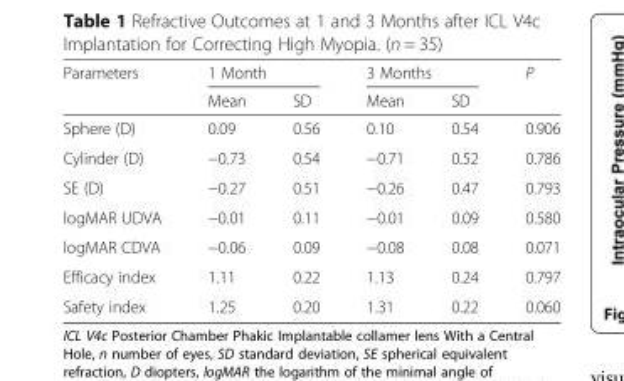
<table><thead><tr><td rowspan="2">Parameters</td><td colspan="2">1 Month</td><td colspan="2">3 Months</td><td rowspan="2">P</td></tr><tr><td>Mean</td><td>SD</td><td>Mean</td><td>SD</td></tr></thead><tbody><tr><td>Sphere (D)</td><td>0.09</td><td>0.56</td><td>0.10</td><td>0.54</td><td>0.906</td></tr><tr><td>Cylinder (D)</td><td>−0.73</td><td>0.54</td><td>−0.71</td><td>0.52</td><td>0.786</td></tr><tr><td>SE (D)</td><td>−0.27</td><td>0.51</td><td>−0.26</td><td>0.47</td><td>0.793</td></tr><tr><td>logMAR UDVA</td><td>−0.01</td><td>0.11</td><td>−0.01</td><td>0.09</td><td>0.580</td></tr><tr><td>logMAR CDVA</td><td>−0.06</td><td>0.09</td><td>−0.08</td><td>0.08</td><td>0.071</td></tr><tr><td>Efficacy index</td><td>1.11</td><td>0.22</td><td>1.13</td><td>0.24</td><td>0.797</td></tr><tr><td>Safety index</td><td>1.25</td><td>0.20</td><td>1.31</td><td>0.22</td><td>0.060</td></tr></tbody></table>